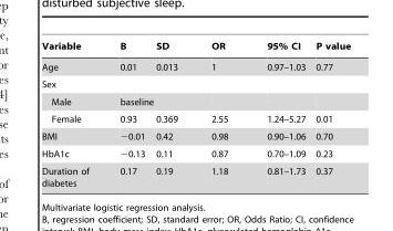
<table><thead><tr><td>Variable</td><td>B</td><td>SD</td><td>OR</td><td>95% CI</td><td>P value</td></tr></thead><tbody><tr><td>Age</td><td>0.01</td><td>0.013</td><td>1</td><td>0.97–1.03</td><td>0.77</td></tr><tr><td colspan="6">Sex</td></tr><tr><td>Male</td><td>baseline</td><td></td><td></td><td></td><td></td></tr><tr><td>Female</td><td>0.93</td><td>0.369</td><td>2.55</td><td>1.24–5.27</td><td>0.01</td></tr><tr><td>BMI</td><td>−0.01</td><td>0.42</td><td>0.98</td><td>0.90–1.06</td><td>0.70</td></tr><tr><td>HbA1c</td><td>−0.13</td><td>0.11</td><td>0.87</td><td>0.70–1.09</td><td>0.23</td></tr><tr><td>Duration of diabetes</td><td>0.17</td><td>0.19</td><td>1.18</td><td>0.81–1.73</td><td>0.37</td></tr></tbody></table>